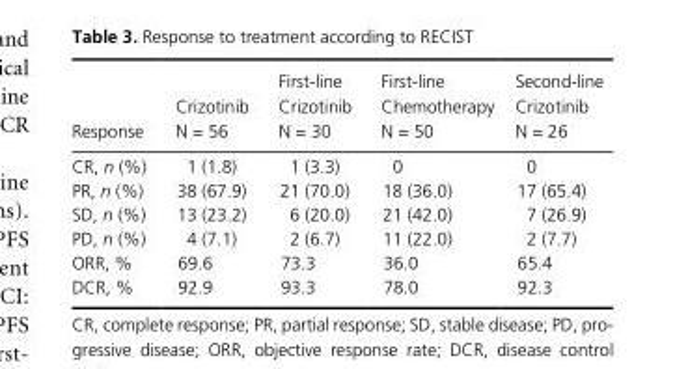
<table><thead><tr><td>Response</td><td>Crizotinib N = 56</td><td>First- line Crizotinib N = 30</td><td>First- line Chemotherapy N = 50</td><td>Second- line Crizotinib N = 26</td></tr></thead><tbody><tr><td>CR, n (%)</td><td>1 (1.8)</td><td>1 (3.3)</td><td>0</td><td>0</td></tr><tr><td>PR, n (%)</td><td>38 (67.9)</td><td>21 (70.0)</td><td>18 (36.0)</td><td>17 (65.4)</td></tr><tr><td>SD, n (%)</td><td>13 (23.2)</td><td>6 (20.0)</td><td>21 (42.0)</td><td>7 (26.9)</td></tr><tr><td>PD, n (%)</td><td>4 (7.1)</td><td>2 (6.7)</td><td>11 (22.0)</td><td>2 (7.7)</td></tr><tr><td>ORR, %</td><td>69.6</td><td>73.3</td><td>36.0</td><td>65.4</td></tr><tr><td>DCR, %</td><td>92.9</td><td>93.3</td><td>78.0</td><td>92.3</td></tr></tbody></table>